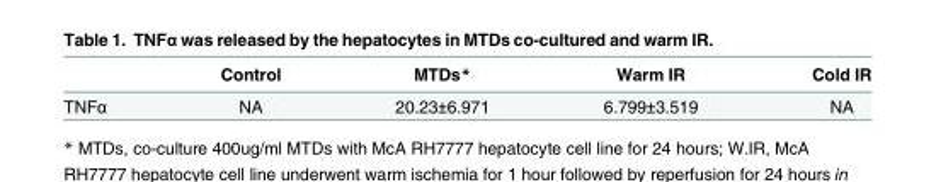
<table><thead><tr><td></td><td>Control</td><td>MTDs*</td><td>Warm IR</td><td>Cold IR</td></tr></thead><tbody><tr><td>TNFα</td><td>NA</td><td>20.23±6.971</td><td>6.799±3.519</td><td>NA</td></tr></tbody></table>